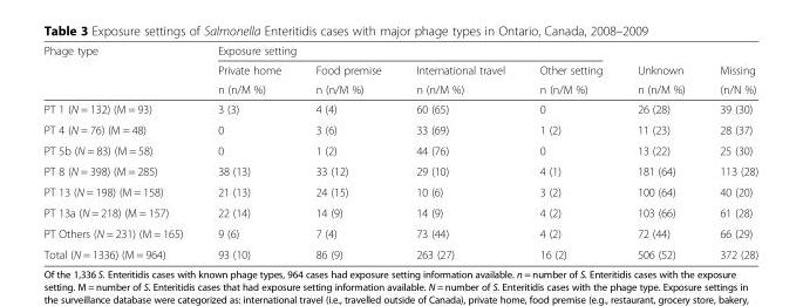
<table><thead><tr><td rowspan="3">Phage type</td><td colspan="4">Exposure setting</td><td rowspan="3">Unknown n (n/M %)</td><td rowspan="3">Missing (n/N %)</td></tr><tr><td rowspan="2">Private home n (n/M %)</td><td rowspan="2">Food premise n (n/M %)</td><td rowspan="2">International travel n (n/M %)</td><td rowspan="2">Other setting n (n/M %)</td></tr><tr></tr></thead><tbody><tr><td>PT 1 (N = 132) (M = 93)</td><td>3 (3)</td><td>4 (4)</td><td>60 (65)</td><td>0</td><td>26 (28)</td><td>39 (30)</td></tr><tr><td>PT 4 (N = 76) (M = 48)</td><td>0</td><td>3 (6)</td><td>33 (69)</td><td>1 (2)</td><td>11 (23)</td><td>28 (37)</td></tr><tr><td>PT 5b (N = 83) (M = 58)</td><td>0</td><td>1 (2)</td><td>44 (76)</td><td>0</td><td>13 (22)</td><td>25 (30)</td></tr><tr><td>PT 8 (N = 398) (M = 285)</td><td>38 (13)</td><td>33 (12)</td><td>29 (10)</td><td>4 (1)</td><td>181 (64)</td><td>113 (28)</td></tr><tr><td>PT 13 (N = 198) (M = 158)</td><td>21 (13)</td><td>24 (15)</td><td>10 (6)</td><td>3 (2)</td><td>100 (64)</td><td>40 (20)</td></tr><tr><td>PT 13a (N = 218) (M = 157)</td><td>22 (14)</td><td>14 (9)</td><td>14 (9)</td><td>4 (2)</td><td>103 (66)</td><td>61 (28)</td></tr><tr><td>PT Others (N = 231) (M = 165)</td><td>9 (6)</td><td>7 (4)</td><td>73 (44)</td><td>4 (2)</td><td>72 (44)</td><td>66 (29)</td></tr><tr><td>Total (N = 1336) (M = 964)</td><td>93 (10)</td><td>86 (9)</td><td>263 (27)</td><td>16 (2)</td><td>506 (52)</td><td>372 (28)</td></tr></tbody></table>